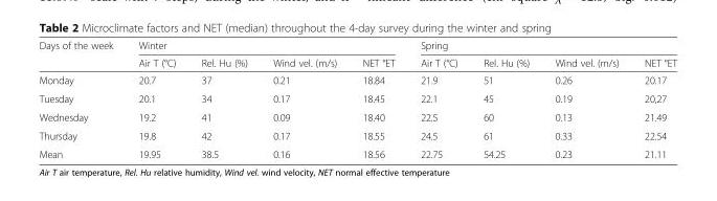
<table><thead><tr><td rowspan="2">Days of the week</td><td colspan="4">Winter</td><td colspan="4">Spring</td></tr><tr><td>Air T (°C)</td><td>Rel. Hu (%)</td><td>Wind vel. (m/s)</td><td>NET °ET</td><td>Air T (°C)</td><td>Rel. Hu (%)</td><td>Wind vel. (m/s)</td><td>NET °ET</td></tr></thead><tbody><tr><td>Monday</td><td>20.7</td><td>37</td><td>0.21</td><td>18.84</td><td>21.9</td><td>51</td><td>0.26</td><td>20.17</td></tr><tr><td>Tuesday</td><td>20.1</td><td>34</td><td>0.17</td><td>18.45</td><td>22.1</td><td>45</td><td>0.19</td><td>20,27</td></tr><tr><td>Wednesday</td><td>19.2</td><td>41</td><td>0.09</td><td>18.40</td><td>22.5</td><td>60</td><td>0.13</td><td>21.49</td></tr><tr><td>Thursday</td><td>19.8</td><td>42</td><td>0.17</td><td>18.55</td><td>24.5</td><td>61</td><td>0.33</td><td>22.54</td></tr><tr><td>Mean</td><td>19.95</td><td>38.5</td><td>0.16</td><td>18.56</td><td>22.75</td><td>54.25</td><td>0.23</td><td>21.11</td></tr></tbody></table>